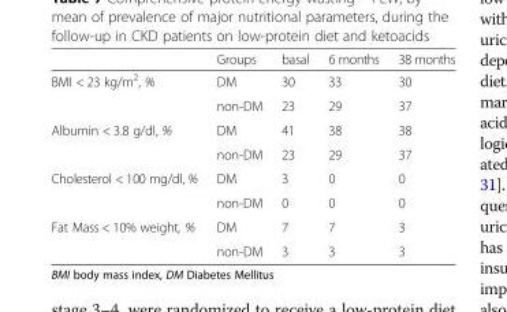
<table><thead><tr><td></td><td>Groups</td><td>basal</td><td>6 months</td><td>38 months</td></tr></thead><tbody><tr><td rowspan="2">BMI &lt; 23 kg/m<sup>2</sup>, %</td><td>DM</td><td>30</td><td>33</td><td>30</td></tr><tr><td>non-DM</td><td>23</td><td>29</td><td>37</td></tr><tr><td rowspan="2">Albumin &lt; 3.8 g/dl, %</td><td>DM</td><td>41</td><td>38</td><td>38</td></tr><tr><td>non-DM</td><td>23</td><td>29</td><td>37</td></tr><tr><td rowspan="2">Cholesterol &lt; 100 mg/dl, %</td><td>DM</td><td>3</td><td>0</td><td>0</td></tr><tr><td>non-DM</td><td>0</td><td>0</td><td>0</td></tr><tr><td rowspan="2">Fat Mass &lt; 10% weight, %</td><td>DM</td><td>7</td><td>7</td><td>3</td></tr><tr><td>non-DM</td><td>3</td><td>3</td><td>3</td></tr></tbody></table>